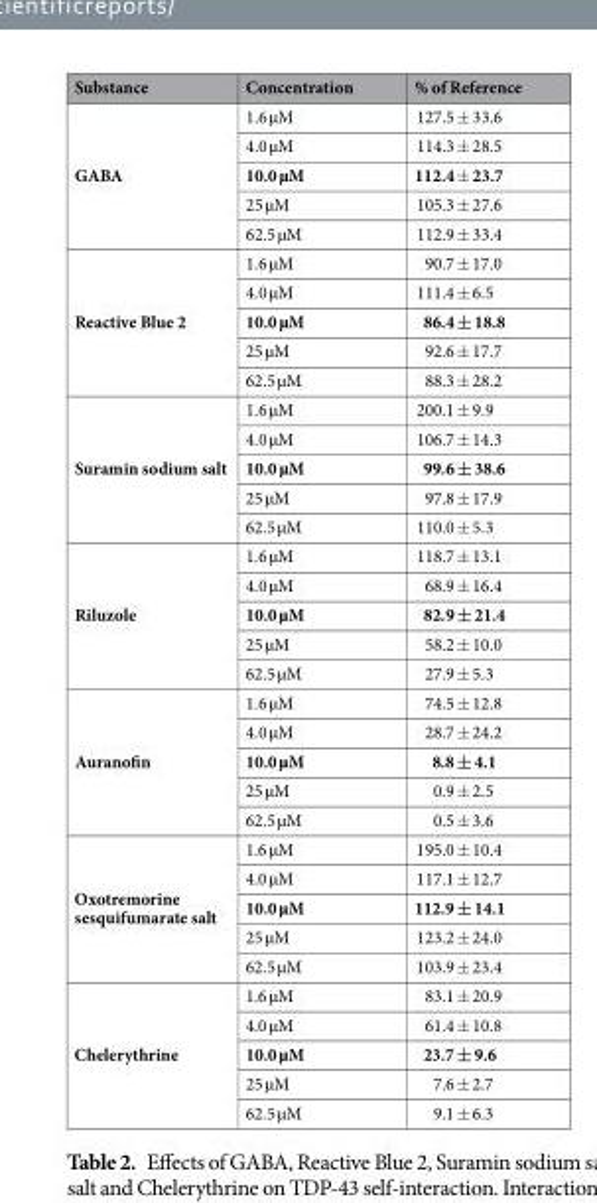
<table><thead><tr><td>Substance</td><td>Concentration</td><td>% of Reference</td></tr></thead><tbody><tr><td rowspan="5">GABA</td><td>1.6 µM</td><td>127.5 ± 33.6</td></tr><tr><td>4.0 µM</td><td>114.3 ± 28.5</td></tr><tr><td>10.0 µM</td><td>112.4 ± 23.7</td></tr><tr><td>25 µM</td><td>105.3 ± 27.6</td></tr><tr><td>62.5 µM</td><td>112.9 ± 33.4</td></tr><tr><td rowspan="5">Reactive Blue 2</td><td>1.6 µM</td><td>90.7 ± 17.0</td></tr><tr><td>4.0 µM</td><td>111.4 ± 6.5</td></tr><tr><td>10.0 µM</td><td>86.4 ± 18.8</td></tr><tr><td>25 µM</td><td>92.6 ± 17.7</td></tr><tr><td>62.5 µM</td><td>88.3 ± 28.2</td></tr><tr><td rowspan="5">Suramin sodium salt</td><td>1.6 µM</td><td>200.1 ± 9.9</td></tr><tr><td>4.0 µM</td><td>106.7 ± 14.3</td></tr><tr><td>10.0 µM</td><td>99.6 ± 38.6</td></tr><tr><td>25 µM</td><td>97.8 ± 17.9</td></tr><tr><td>62.5 µM</td><td>110.0 ± 5.3</td></tr><tr><td rowspan="5">Riluzole</td><td>1.6 µM</td><td>118.7 ± 13.1</td></tr><tr><td>4.0 µM</td><td>68.9 ± 16.4</td></tr><tr><td>10.0 µM</td><td>82.9 ± 21.4</td></tr><tr><td>25 µM</td><td>58.2 ± 10.0</td></tr><tr><td>62.5 µM</td><td>27.9 ± 5.3</td></tr><tr><td rowspan="5">Auranofin</td><td>1.6 µM</td><td>74.5 ± 12.8</td></tr><tr><td>4.0 µM</td><td>28.7 ± 24.2</td></tr><tr><td>10.0 µM</td><td>8.8 ± 4.1</td></tr><tr><td>25 µM</td><td>0.9 ± 2.5</td></tr><tr><td>62.5 µM</td><td>0.5 ± 3.6</td></tr><tr><td rowspan="5">Oxotremorine sesquifumarate salt</td><td>1.6 µM</td><td>195.0 ± 10.4</td></tr><tr><td>4.0 µM</td><td>117.1 ± 12.7</td></tr><tr><td>10.0 µM</td><td>112.9 ± 14.1</td></tr><tr><td>25 µM</td><td>123.2 ± 24.0</td></tr><tr><td>62.5 µM</td><td>103.9 ± 23.4</td></tr><tr><td rowspan="5">Chelerythrine</td><td>1.6 µM</td><td>83.1 ± 20.9</td></tr><tr><td>4.0 µM</td><td>61.4 ± 10.8</td></tr><tr><td>10.0 µM</td><td>23.7 ± 9.6</td></tr><tr><td>25 µM</td><td>7.6 ± 2.7</td></tr><tr><td>62.5 µM</td><td>9.1 ± 6.3</td></tr></tbody></table>